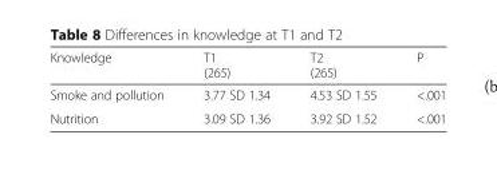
<table><thead><tr><td>Knowledge</td><td>T1 (265)</td><td>T2 (265)</td><td>P</td></tr></thead><tbody><tr><td>Smoke and pollution</td><td>3.77 SD 1.34</td><td>4.53 SD 1.55</td><td>&lt;.001</td></tr><tr><td>Nutrition</td><td>3.09 SD 1.36</td><td>3.92 SD 1.52</td><td>&lt;.001</td></tr></tbody></table>